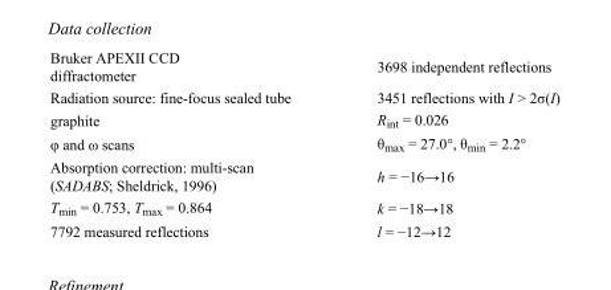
<table><tbody><tr><td>Bruker APEXII CCD diffractometer</td><td>3698 independent reflections</td></tr><tr><td>Radiation source: fine-focus sealed tube</td><td>3451 reflections with I &gt; 2σ(I)</td></tr><tr><td>graphite</td><td>R<sub>int</sub> = 0.026</td></tr><tr><td>φ and ω scans</td><td>θ<sub>max</sub> = 27.0°, θ<sub>min</sub> = 2.2°</td></tr><tr><td>Absorption correction: multi-scan (SADABS; Sheldrick, 1996)</td><td>h = −16→16</td></tr><tr><td>T<sub>min</sub> = 0.753, T<sub>max</sub> = 0.864</td><td>k = −18→18</td></tr><tr><td>7792 measured reflections</td><td>l = −12→12</td></tr></tbody></table>